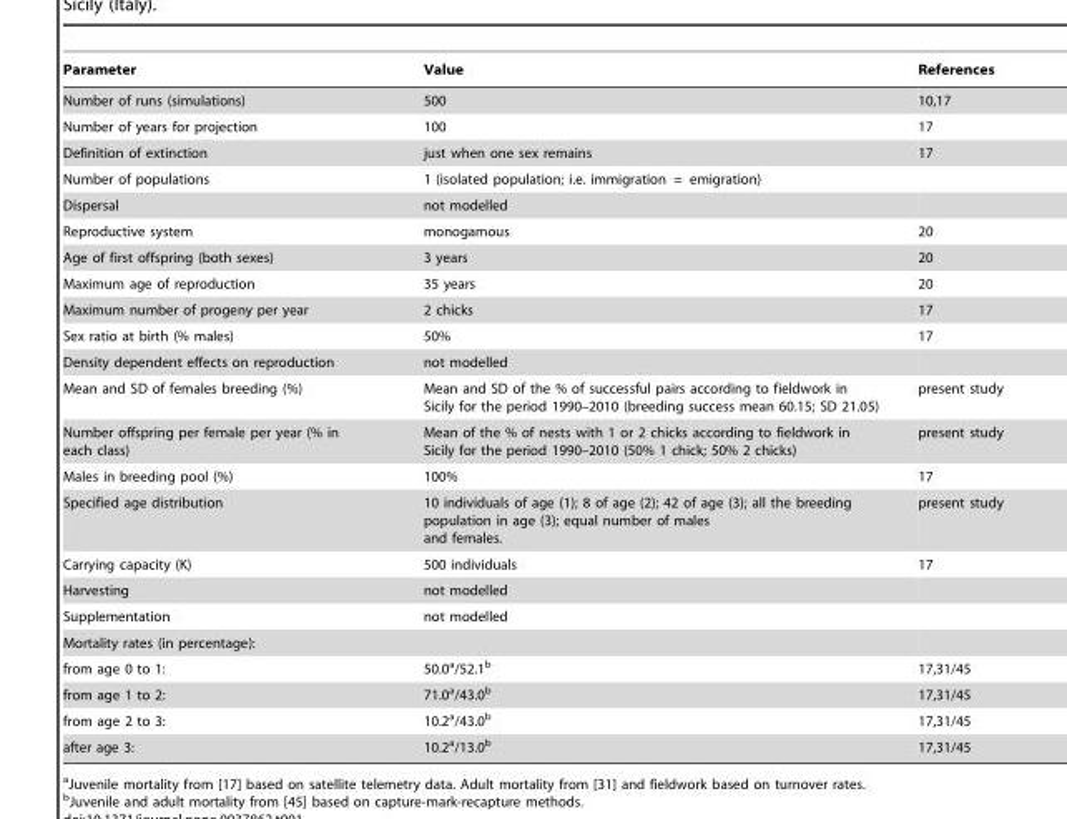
<table><thead><tr><td>Parameter</td><td>Value</td><td>References</td></tr></thead><tbody><tr><td>Number of runs (simulations)</td><td>500</td><td>10,17</td></tr><tr><td>Number of years for projection</td><td>100</td><td>17</td></tr><tr><td>Definition of extinction</td><td>just when one sex remains</td><td>17</td></tr><tr><td>Number of populations</td><td>1 (isolated population; i.e. immigration = emigration)</td><td></td></tr><tr><td>Dispersal</td><td>not modelled</td><td></td></tr><tr><td>Reproductive system</td><td>monogamous</td><td>20</td></tr><tr><td>Age of first offspring (both sexes)</td><td>3 years</td><td>20</td></tr><tr><td>Maximum age of reproduction</td><td>35 years</td><td>20</td></tr><tr><td>Maximum number of progeny per year</td><td>2 chicks</td><td>17</td></tr><tr><td>Sex ratio at birth (% males)</td><td>50%</td><td>17</td></tr><tr><td>Density dependent effects on reproduction</td><td>not modelled</td><td></td></tr><tr><td>Mean and SD of females breeding (%)</td><td>Mean and SD of the % of successful pairs according to fieldwork in Sicily for the period 1990–2010 (breeding success mean 60.15; SD 21.05)</td><td>present study</td></tr><tr><td>Number offspring per female per year (% in each class)</td><td>Mean of the % of nests with 1 or 2 chicks according to fieldwork in Sicily for the period 1990–2010 (50% 1 chick; 50% 2 chicks)</td><td>present study</td></tr><tr><td>Males in breeding pool (%)</td><td>100%</td><td>17</td></tr><tr><td>Specified age distribution</td><td>10 individuals of age (1); 8 of age (2); 42 of age (3); all the breeding population in age (3); equal number of males and females.</td><td>present study</td></tr><tr><td>Carrying capacity (K)</td><td>500 individuals</td><td>17</td></tr><tr><td>Harvesting</td><td>not modelled</td><td></td></tr><tr><td>Supplementation</td><td>not modelled</td><td></td></tr><tr><td colspan="3">Mortality rates (in percentage):</td></tr><tr><td>from age 0 to 1:</td><td>50.0<sup>a</sup>/52.1<sup>b</sup></td><td>17,31/45</td></tr><tr><td>from age 1 to 2:</td><td>71.0<sup>a</sup>/43.0<sup>b</sup></td><td>17,31/45</td></tr><tr><td>from age 2 to 3:</td><td>10.2<sup>a</sup>/43.0<sup>b</sup></td><td>17,31/45</td></tr><tr><td>after age 3:</td><td>10.2<sup>a</sup>/13.0<sup>b</sup></td><td>17,31/45</td></tr></tbody></table>